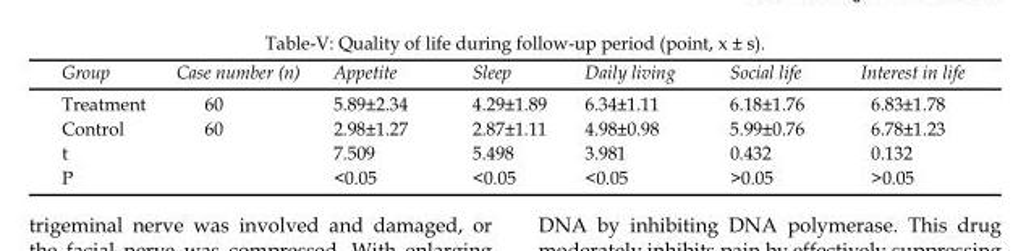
<table><thead><tr><td>Group</td><td>Case number (n)</td><td>Appetite</td><td>Sleep</td><td>Daily living</td><td>Social life</td><td>Interest in life</td></tr></thead><tbody><tr><td>Treatment</td><td>60</td><td>5.89±2.34</td><td>4.29±1.89</td><td>6.34±1.11</td><td>6.18±1.76</td><td>6.83±1.78</td></tr><tr><td>Control</td><td>60</td><td>2.98±1.27</td><td>2.87±1.11</td><td>4.98±0.98</td><td>5.99±0.76</td><td>6.78±1.23</td></tr><tr><td>t</td><td></td><td>7.509</td><td>5.498</td><td>3.981</td><td>0.432</td><td>0.132</td></tr><tr><td>P</td><td></td><td>&lt;0.05</td><td>&lt;0.05</td><td>&lt;0.05</td><td>&gt;0.05</td><td>&gt;0.05</td></tr></tbody></table>